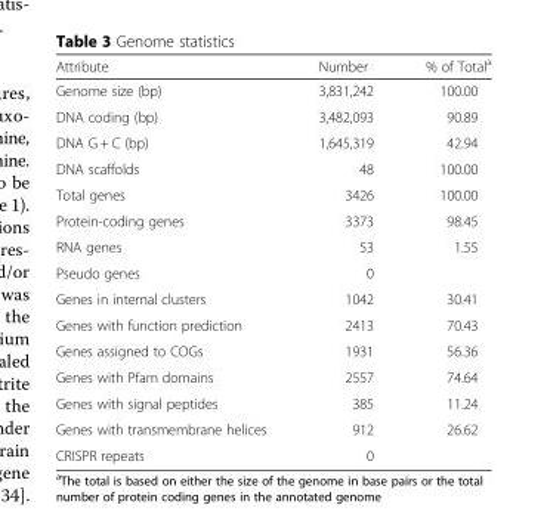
<table><thead><tr><td>Attribute</td><td>Number</td><td>% of Total<sup>a</sup></td></tr></thead><tbody><tr><td>Genome size (bp)</td><td>3,831,242</td><td>100.00</td></tr><tr><td>DNA coding (bp)</td><td>3,482,093</td><td>90.89</td></tr><tr><td>DNA G + C (bp)</td><td>1,645,319</td><td>42.94</td></tr><tr><td>DNA scaffolds</td><td>48</td><td>100.00</td></tr><tr><td>Total genes</td><td>3426</td><td>100.00</td></tr><tr><td>Protein-coding genes</td><td>3373</td><td>98.45</td></tr><tr><td>RNA genes</td><td>53</td><td>1.55</td></tr><tr><td>Pseudo genes</td><td>0</td><td></td></tr><tr><td>Genes in internal clusters</td><td>1042</td><td>30.41</td></tr><tr><td>Genes with function prediction</td><td>2413</td><td>70.43</td></tr><tr><td>Genes assigned to COGs</td><td>1931</td><td>56.36</td></tr><tr><td>Genes with Pfam domains</td><td>2557</td><td>74.64</td></tr><tr><td>Genes with signal peptides</td><td>385</td><td>11.24</td></tr><tr><td>Genes with transmembrane helices</td><td>912</td><td>26.62</td></tr><tr><td>CRISPR repeats</td><td>0</td><td></td></tr></tbody></table>